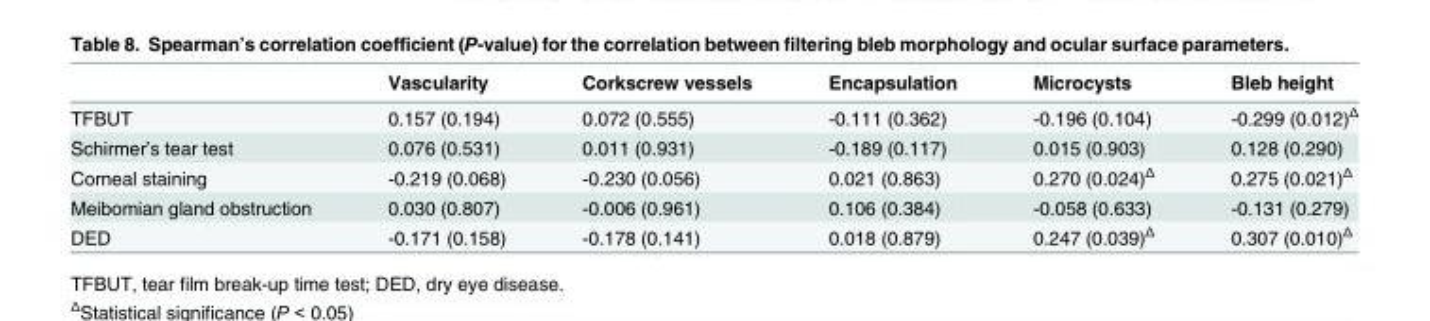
<table><thead><tr><td></td><td>Vascularity</td><td>Corkscrew vessels</td><td>Encapsulation</td><td>Microcysts</td><td>Bleb height</td></tr></thead><tbody><tr><td>TFBUT</td><td>0.157 (0.194)</td><td>0.072 (0.555)</td><td>-0.111 (0.362)</td><td>-0.196 (0.104)</td><td>-0.299 (0.012)<sup>Δ</sup></td></tr><tr><td>Schirmer’s tear test</td><td>0.076 (0.531)</td><td>0.011 (0.931)</td><td>-0.189 (0.117)</td><td>0.015 (0.903)</td><td>0.128 (0.290)</td></tr><tr><td>Corneal staining</td><td>-0.219 (0.068)</td><td>-0.230 (0.056)</td><td>0.021 (0.863)</td><td>0.270 (0.024)<sup>Δ</sup></td><td>0.275 (0.021)<sup>Δ</sup></td></tr><tr><td>Meibomian gland obstruction</td><td>0.030 (0.807)</td><td>-0.006 (0.961)</td><td>0.106 (0.384)</td><td>-0.058 (0.633)</td><td>-0.131 (0.279)</td></tr><tr><td>DED</td><td>-0.171 (0.158)</td><td>-0.178 (0.141)</td><td>0.018 (0.879)</td><td>0.247 (0.039)<sup>Δ</sup></td><td>0.307 (0.010)<sup>Δ</sup></td></tr></tbody></table>